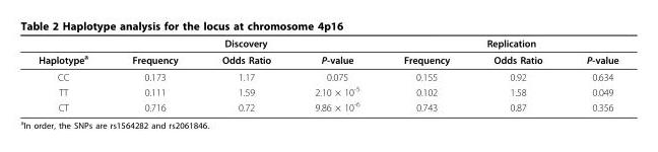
<table><thead><tr><td rowspan="2">Haplotype<sup>a</sup></td><td colspan="3">Discovery</td><td colspan="3">Replication</td></tr><tr><td>Frequency</td><td>Odds Ratio</td><td>P-value</td><td>Frequency</td><td>Odds Ratio</td><td>P-value</td></tr></thead><tbody><tr><td>CC</td><td>0.173</td><td>1.17</td><td>0.075</td><td>0.155</td><td>0.92</td><td>0.634</td></tr><tr><td>TT</td><td>0.111</td><td>1.59</td><td>2.10 × 10<sup>-5</sup></td><td>0.102</td><td>1.58</td><td>0.049</td></tr><tr><td>CT</td><td>0.716</td><td>0.72</td><td>9.86 × 10<sup>-6</sup></td><td>0.743</td><td>0.87</td><td>0.356</td></tr></tbody></table>